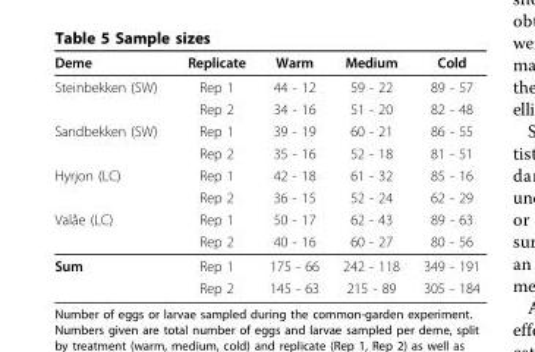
<table><thead><tr><td>Deme</td><td>Replicate</td><td>Warm</td><td>Medium</td><td>Cold</td></tr></thead><tbody><tr><td rowspan="2">Steinbekken (SW)</td><td>Rep 1</td><td>44 - 12</td><td>59 - 22</td><td>89 - 57</td></tr><tr><td>Rep 2</td><td>34 - 16</td><td>51 - 20</td><td>82 - 48</td></tr><tr><td rowspan="2">Sandbekken (SW)</td><td>Rep 1</td><td>39 - 19</td><td>60 - 21</td><td>86 - 55</td></tr><tr><td>Rep 2</td><td>35 - 16</td><td>52 - 18</td><td>81 - 51</td></tr><tr><td rowspan="2">Hyrjon (LC)</td><td>Rep 1</td><td>42 - 18</td><td>61 - 32</td><td>85 - 16</td></tr><tr><td>Rep 2</td><td>36 - 15</td><td>52 - 24</td><td>62 - 29</td></tr><tr><td rowspan="2">Valåe (LC)</td><td>Rep 1</td><td>50 - 17</td><td>62 - 43</td><td>89 - 63</td></tr><tr><td>Rep 2</td><td>40 - 16</td><td>60 - 27</td><td>80 - 56</td></tr><tr><td rowspan="2">Sum</td><td>Rep 1</td><td>175 - 66</td><td>242 - 118</td><td>349 - 191</td></tr><tr><td>Rep 2</td><td>145 - 63</td><td>215 - 89</td><td>305 - 184</td></tr></tbody></table>